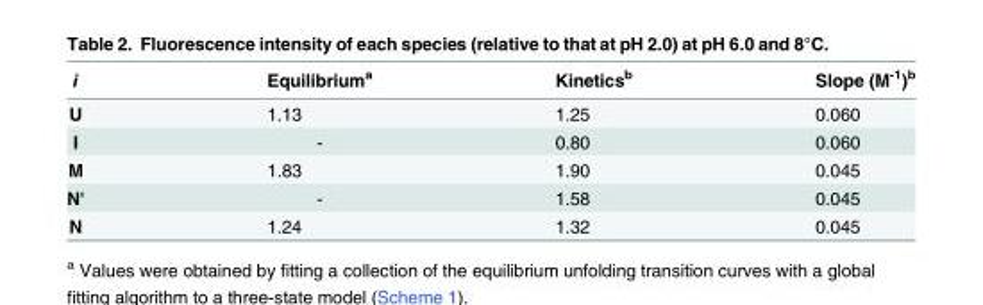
<table><thead><tr><td>i</td><td>Equilibrium<sup>a</sup></td><td>Kinetics<sup>b</sup></td><td>Slope (M<sup>-1</sup>)<sup>b</sup></td></tr></thead><tbody><tr><td>U</td><td>1.13</td><td>1.25</td><td>0.060</td></tr><tr><td>I</td><td>-</td><td>0.80</td><td>0.060</td></tr><tr><td>M</td><td>1.83</td><td>1.90</td><td>0.045</td></tr><tr><td>N&#x27;</td><td>-</td><td>1.58</td><td>0.045</td></tr><tr><td>N</td><td>1.24</td><td>1.32</td><td>0.045</td></tr></tbody></table>